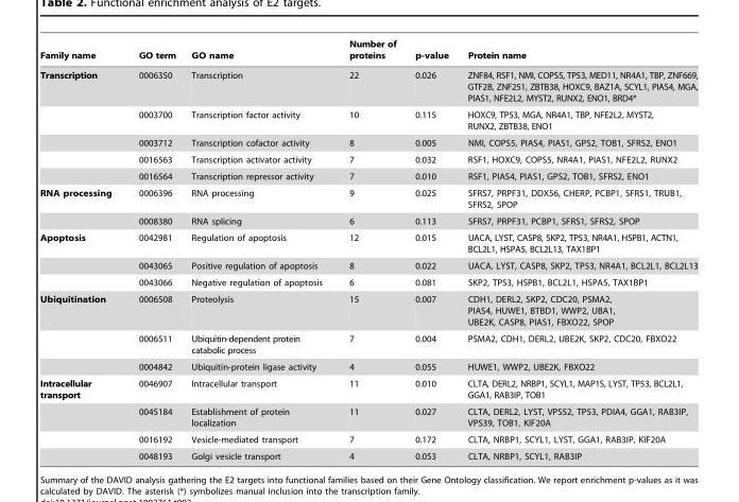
<table><thead><tr><td>Family name</td><td>GO term</td><td>GO name</td><td>Number of proteins</td><td>p-value</td><td>Protein name</td></tr></thead><tbody><tr><td rowspan="5">Transcription</td><td>0006350</td><td>Transcription</td><td>22</td><td>0.026</td><td>ZNF84, RSF1, NMI, COPS5, TP53, MED11, NR4A1, TBP, ZNF669, GTF2B, ZNF251, ZBTB38, HOXC9, BAZ1A, SCYL1, PIAS4, MGA, PIAS1, NFE2L2, MYST2, RUNX2, ENO1, BRD4*</td></tr><tr><td>0003700</td><td>Transcription factor activity</td><td>10</td><td>0.115</td><td>HOXC9, TP53, MGA, NR4A1, TBP, NFE2L2, MYST2, RUNX2, ZBTB38, ENO1</td></tr><tr><td>0003712</td><td>Transcription cofactor activity</td><td>8</td><td>0.005</td><td>NMI, COPS5, PIAS4, PIAS1, GPS2, TOB1, SFRS2, ENO1</td></tr><tr><td>0016563</td><td>Transcription activator activity</td><td>7</td><td>0.032</td><td>RSF1, HOXC9, COPS5, NR4A1, PIAS1, NFE2L2, RUNX2</td></tr><tr><td>0016564</td><td>Transcription repressor activity</td><td>7</td><td>0.010</td><td>RSF1, PIAS4, PIAS1, GPS2, TOB1, SFRS2, ENO1</td></tr><tr><td rowspan="2">RNA processing</td><td>0006396</td><td>RNA processing</td><td>9</td><td>0.025</td><td>SFRS7, PRPF31, DDX56, CHERP, PCBP1, SFRS1, TRUB1, SFRS2, SPOP</td></tr><tr><td>0008380</td><td>RNA splicing</td><td>6</td><td>0.113</td><td>SFRS7, PRPF31, PCBP1, SFRS1, SFRS2, SPOP</td></tr><tr><td rowspan="3">Apoptosis</td><td>0042981</td><td>Regulation of apoptosis</td><td>12</td><td>0.015</td><td>UACA, LYST, CASP8, SKP2, TP53, NR4A1, HSPB1, ACTN1, BCL2L1, HSPA5, BCL2L13, TAX1BP1</td></tr><tr><td>0043065</td><td>Positive regulation of apoptosis</td><td>8</td><td>0.022</td><td>UACA, LYST, CASP8, SKP2, TP53, NR4A1, BCL2L1, BCL2L13</td></tr><tr><td>0043066</td><td>Negative regulation of apoptosis</td><td>6</td><td>0.081</td><td>SKP2, TP53, HSPB1, BCL2L1, HSPA5, TAX1BP1</td></tr><tr><td rowspan="3">Ubiquitination</td><td>0006508</td><td>Proteolysis</td><td>15</td><td>0.007</td><td>CDH1, DERL2, SKP2, CDC20, PSMA2, PIAS4, HUWE1, BTBD1, WWP2, UBA1, UBE2K, CASP8, PIAS1, FBXO22, SPOP</td></tr><tr><td>0006511</td><td>Ubiquitin-dependent protein catabolic process</td><td>7</td><td>0.004</td><td>PSMA2, CDH1, DERL2, UBE2K, SKP2, CDC20, FBXO22</td></tr><tr><td>0004842</td><td>Ubiquitin-protein ligase activity</td><td>4</td><td>0.055</td><td>HUWE1, WWP2, UBE2K, FBXO22</td></tr><tr><td rowspan="4">Intracellular transport</td><td>0046907</td><td>Intracellular transport</td><td>11</td><td>0.010</td><td>CLTA, DERL2, NRBP1, SCYL1, MAP1S, LYST, TP53, BCL2L1, GGA1, RAB3IP, TOB1</td></tr><tr><td>0045184</td><td>Establishment of protein localization</td><td>11</td><td>0.027</td><td>CLTA, DERL2, LYST, VPS52, TP53, PDIA4, GGA1, RAB3IP, VPS39, TOB1, KIF20A</td></tr><tr><td>0016192</td><td>Vesicle-mediated transport</td><td>7</td><td>0.172</td><td>CLTA, NRBP1, SCYL1, LYST, GGA1, RAB3IP, KIF20A</td></tr><tr><td>0048193</td><td>Golgi vesicle transport</td><td>4</td><td>0.053</td><td>CLTA, NRBP1, SCYL1, RAB3IP</td></tr></tbody></table>